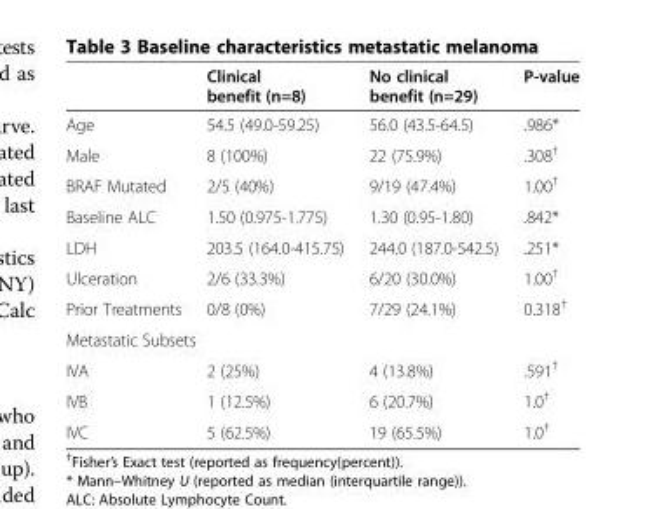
<table><thead><tr><td></td><td>Clinical benefit (n=8)</td><td>No clinical benefit (n=29)</td><td>P-value</td></tr></thead><tbody><tr><td>Age</td><td>54.5 (49.0-59.25)</td><td>56.0 (43.5-64.5)</td><td>.986*</td></tr><tr><td>Male</td><td>8 (100%)</td><td>22 (75.9%)</td><td>.308<sup>†</sup></td></tr><tr><td>BRAF Mutated</td><td>2/5 (40%)</td><td>9/19 (47.4%)</td><td>1.00<sup>†</sup></td></tr><tr><td>Baseline ALC</td><td>1.50 (0.975-1.775)</td><td>1.30 (0.95-1.80)</td><td>.842*</td></tr><tr><td>LDH</td><td>203.5 (164.0-415.75)</td><td>244.0 (187.0-542.5)</td><td>.251*</td></tr><tr><td>Ulceration</td><td>2/6 (33.3%)</td><td>6/20 (30.0%)</td><td>1.00<sup>†</sup></td></tr><tr><td>Prior Treatments</td><td>0/8 (0%)</td><td>7/29 (24.1%)</td><td>0.318<sup>†</sup></td></tr><tr><td colspan="4">Metastatic Subsets</td></tr><tr><td>IVA</td><td>2 (25%)</td><td>4 (13.8%)</td><td>.591<sup>†</sup></td></tr><tr><td>IVB</td><td>1 (12.5%)</td><td>6 (20.7%)</td><td>1.0<sup>†</sup></td></tr><tr><td>IVC</td><td>5 (62.5%)</td><td>19 (65.5%)</td><td>1.0<sup>†</sup></td></tr></tbody></table>